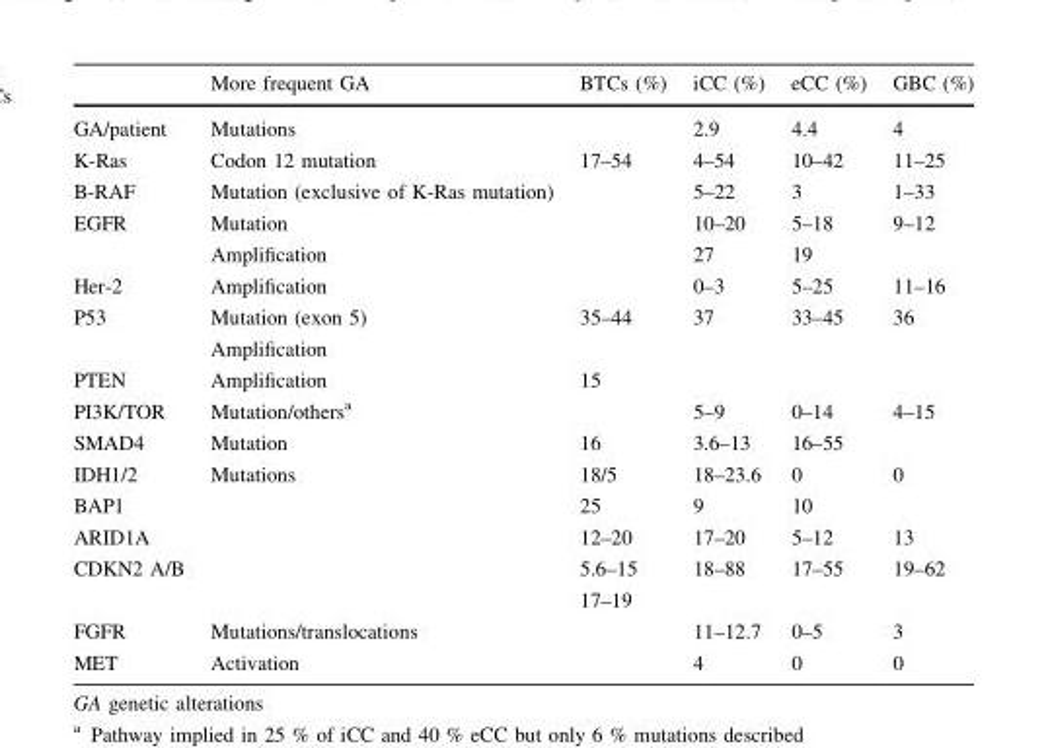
<table><thead><tr><td></td><td>More frequent GA</td><td>BTCs (%)</td><td>iCC (%)</td><td>eCC (%)</td><td>GBC (%)</td></tr></thead><tbody><tr><td>GA/patient</td><td>Mutations</td><td></td><td>2.9</td><td>4.4</td><td>4</td></tr><tr><td>K-Ras</td><td>Codon 12 mutation</td><td>17–54</td><td>4–54</td><td>10–42</td><td>11–25</td></tr><tr><td>B-RAF</td><td>Mutation (exclusive of K-Ras mutation)</td><td></td><td>5–22</td><td>3</td><td>1–33</td></tr><tr><td>EGFR</td><td>Mutation Amplification</td><td></td><td>10–20 27</td><td>5–18 19</td><td>9–12</td></tr><tr><td>Her-2</td><td>Amplification</td><td></td><td>0–3</td><td>5–25</td><td>11–16</td></tr><tr><td>P53</td><td>Mutation (exon 5) Amplification</td><td>35–44</td><td>37</td><td>33–45</td><td>36</td></tr><tr><td>PTEN</td><td>Amplification</td><td>15</td><td></td><td></td><td></td></tr><tr><td>PI3K/TOR</td><td>Mutation/others<sup>a</sup></td><td></td><td>5–9</td><td>0–14</td><td>4–15</td></tr><tr><td>SMAD4</td><td>Mutation</td><td>16</td><td>3.6–13</td><td>16–55</td><td></td></tr><tr><td>IDH1/2</td><td>Mutations</td><td>18/5</td><td>18–23.6</td><td>0</td><td>0</td></tr><tr><td>BAP1</td><td></td><td>25</td><td>9</td><td>10</td><td></td></tr><tr><td>ARID1A</td><td></td><td>12–20</td><td>17–20</td><td>5–12</td><td>13</td></tr><tr><td>CDKN2 A/B</td><td></td><td>5.6–15 17–19</td><td>18–88</td><td>17–55</td><td>19–62</td></tr><tr><td>FGFR</td><td>Mutations/translocations</td><td></td><td>11–12.7</td><td>0–5</td><td>3</td></tr><tr><td>MET</td><td>Activation</td><td></td><td>4</td><td>0</td><td>0</td></tr></tbody></table>